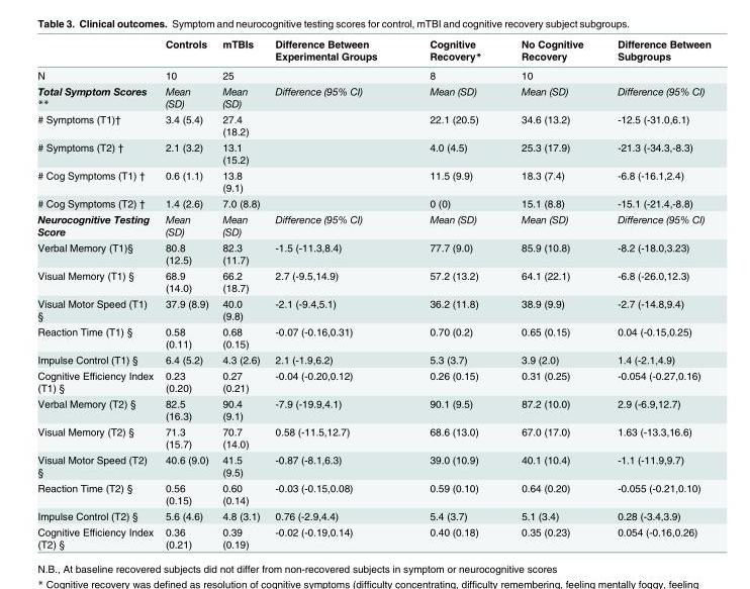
<table><thead><tr><td></td><td>Controls</td><td>mTBIs</td><td>Difference Between Experimental Groups</td><td>Cognitive Recovery*</td><td>No Cognitive Recovery</td><td>Difference Between Subgroups</td></tr></thead><tbody><tr><td>N</td><td>10</td><td>25</td><td></td><td>8</td><td>10</td><td></td></tr><tr><td>Total Symptom Scores **</td><td>Mean (SD)</td><td>Mean (SD)</td><td>Difference (95% CI)</td><td>Mean (SD)</td><td>Mean (SD)</td><td>Difference (95% CI)</td></tr><tr><td># Symptoms (T1)†</td><td>3.4 (5.4)</td><td>27.4 (18.2)</td><td></td><td>22.1 (20.5)</td><td>34.6 (13.2)</td><td>-12.5 (-31.0,6.1)</td></tr><tr><td># Symptoms (T2) †</td><td>2.1 (3.2)</td><td>13.1 (15.2)</td><td></td><td>4.0 (4.5)</td><td>25.3 (17.9)</td><td>-21.3 (-34.3,-8.3)</td></tr><tr><td># Cog Symptoms (T1) †</td><td>0.6 (1.1)</td><td>13.8 (9.1)</td><td></td><td>11.5 (9.9)</td><td>18.3 (7.4)</td><td>-6.8 (-16.1,2.4)</td></tr><tr><td># Cog Symptoms (T2) †</td><td>1.4 (2.6)</td><td>7.0 (8.8)</td><td></td><td>0 (0)</td><td>15.1 (8.8)</td><td>-15.1 (-21.4,-8.8)</td></tr><tr><td>Neurocognitive Testing Score</td><td>Mean (SD)</td><td>Mean (SD)</td><td>Difference (95% CI)</td><td>Mean (SD)</td><td>Mean (SD)</td><td>Difference (95% CI)</td></tr><tr><td>Verbal Memory (T1)§</td><td>80.8 (12.5)</td><td>82.3 (11.7)</td><td>-1.5 (-11.3,8.4)</td><td>77.7 (9.0)</td><td>85.9 (10.8)</td><td>-8.2 (-18.0,3.23)</td></tr><tr><td>Visual Memory (T1) §</td><td>68.9 (14.0)</td><td>66.2 (18.7)</td><td>2.7 (-9.5,14.9)</td><td>57.2 (13.2)</td><td>64.1 (22.1)</td><td>-6.8 (-26.0,12.3)</td></tr><tr><td>Visual Motor Speed (T1) §</td><td>37.9 (8.9)</td><td>40.0 (9.8)</td><td>-2.1 (-9.4,5.1)</td><td>36.2 (11.8)</td><td>38.9 (9.9)</td><td>-2.7 (-14.8,9.4)</td></tr><tr><td>Reaction Time (T1) §</td><td>0.58 (0.11)</td><td>0.68 (0.15)</td><td>-0.07 (-0.16,0.31)</td><td>0.70 (0.2)</td><td>0.65 (0.15)</td><td>0.04 (-0.15,0.25)</td></tr><tr><td>Impulse Control (T1) §</td><td>6.4 (5.2)</td><td>4.3 (2.6)</td><td>2.1 (-1.9,6.2)</td><td>5.3 (3.7)</td><td>3.9 (2.0)</td><td>1.4 (-2.1,4.9)</td></tr><tr><td>Cognitive Efficiency Index (T1) §</td><td>0.23 (0.20)</td><td>0.27 (0.21)</td><td>-0.04 (-0.20,0.12)</td><td>0.26 (0.15)</td><td>0.31 (0.25)</td><td>-0.054 (-0.27,0.16)</td></tr><tr><td>Verbal Memory (T2) §</td><td>82.5 (16.3)</td><td>90.4 (9.1)</td><td>-7.9 (-19.9,4.1)</td><td>90.1 (9.5)</td><td>87.2 (10.0)</td><td>2.9 (-6.9,12.7)</td></tr><tr><td>Visual Memory (T2) §</td><td>71.3 (15.7)</td><td>70.7 (14.0)</td><td>0.58 (-11.5,12.7)</td><td>68.6 (13.0)</td><td>67.0 (17.0)</td><td>1.63 (-13.3,16.6)</td></tr><tr><td>Visual Motor Speed (T2) §</td><td>40.6 (9.0)</td><td>41.5 (9.5)</td><td>-0.87 (-8.1,6.3)</td><td>39.0 (10.9)</td><td>40.1 (10.4)</td><td>-1.1 (-11.9,9.7)</td></tr><tr><td>Reaction Time (T2) §</td><td>0.56 (0.15)</td><td>0.60 (0.14)</td><td>-0.03 (-0.15,0.08)</td><td>0.59 (0.10)</td><td>0.64 (0.20)</td><td>-0.055 (-0.21,0.10)</td></tr><tr><td>Impulse Control (T2) §</td><td>5.6 (4.6)</td><td>4.8 (3.1)</td><td>0.76 (-2.9,4.4)</td><td>5.4 (3.7)</td><td>5.1 (3.4)</td><td>0.28 (-3.4,3.9)</td></tr><tr><td>Cognitive Efficiency Index (T2) §</td><td>0.36 (0.21)</td><td>0.39 (0.19)</td><td>-0.02 (-0.19,0.14)</td><td>0.40 (0.18)</td><td>0.35 (0.23)</td><td>0.054 (-0.16,0.26)</td></tr></tbody></table>